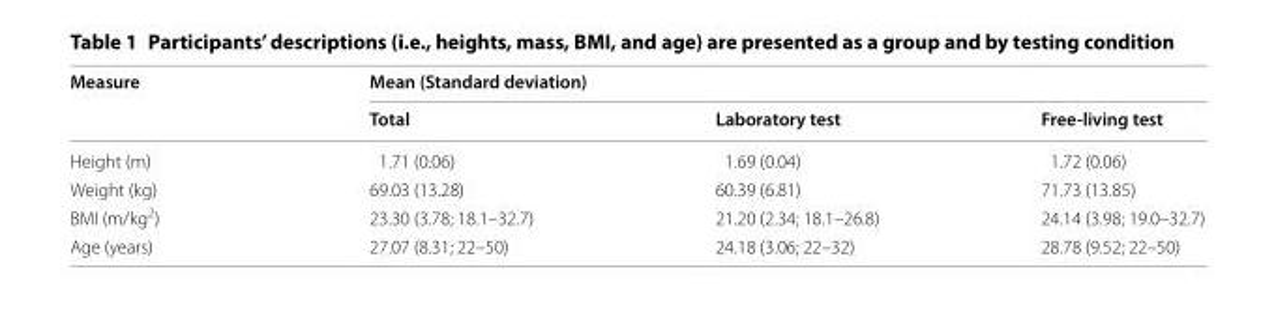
<table><thead><tr><td rowspan="2">Measure</td><td colspan="3">Mean (Standard deviation)</td></tr><tr><td>Total</td><td>Laboratory test</td><td>Free-living test</td></tr></thead><tbody><tr><td>Height (m)</td><td>1.71 (0.06)</td><td>1.69 (0.04)</td><td>1.72 (0.06)</td></tr><tr><td>Weight (kg)</td><td>69.03 (13.28)</td><td>60.39 (6.81)</td><td>71.73 (13.85)</td></tr><tr><td>BMI (m/kg<sup>2</sup>)</td><td>23.30 (3.78; 18.1–32.7)</td><td>21.20 (2.34; 18.1–26.8)</td><td>24.14 (3.98; 19.0–32.7)</td></tr><tr><td>Age (years)</td><td>27.07 (8.31; 22–50)</td><td>24.18 (3.06; 22–32)</td><td>28.78 (9.52; 22–50)</td></tr></tbody></table>